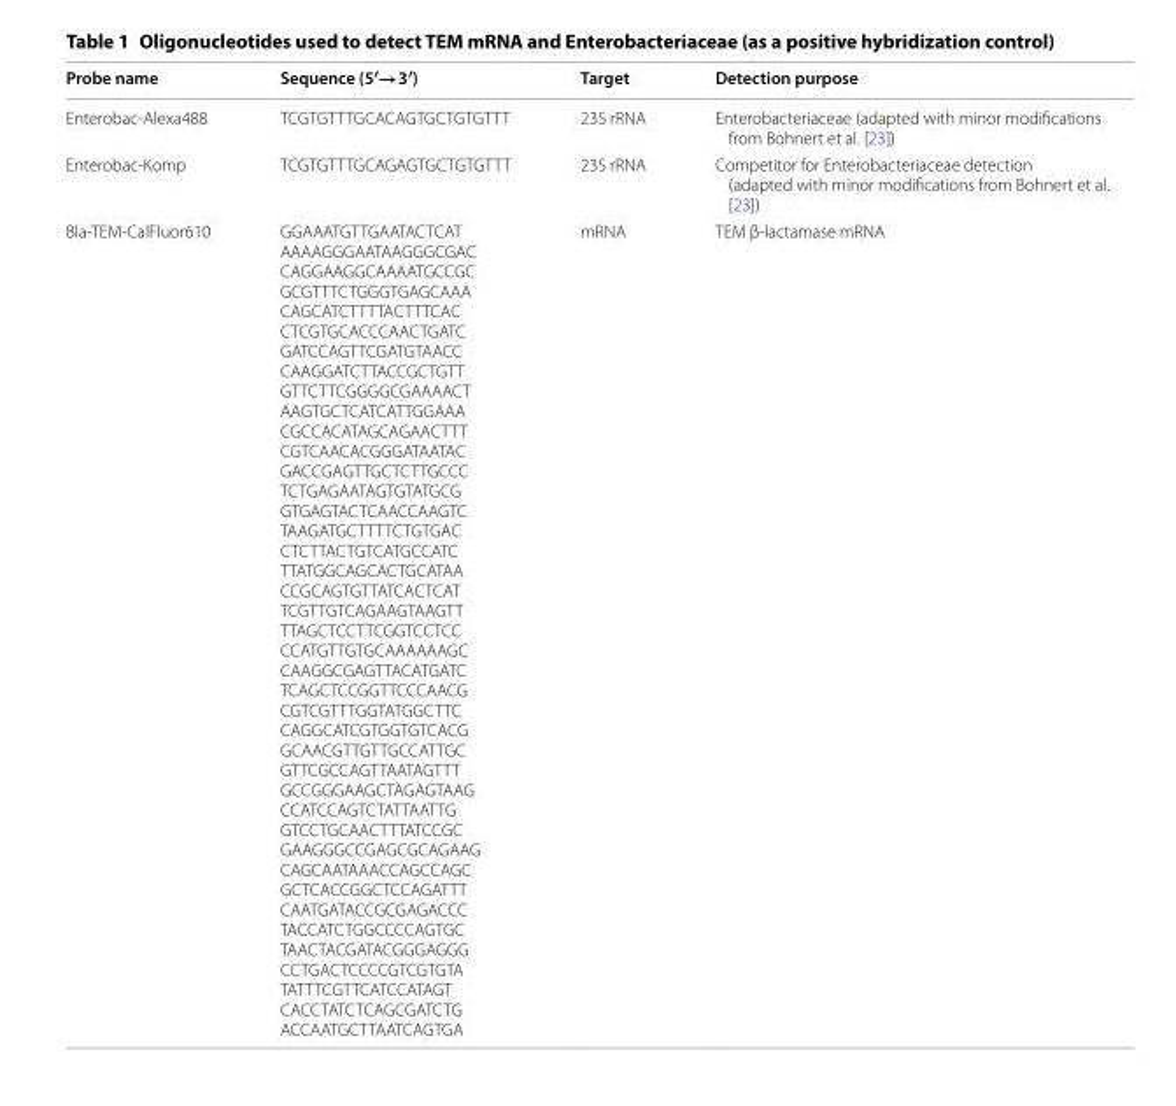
<table><thead><tr><td>Probe name</td><td>Sequence (5′→3′)</td><td>Target</td><td>Detection purpose</td></tr></thead><tbody><tr><td>Enterobac-Alexa488</td><td>TCGTGTTTGCACAGTGCTGTGTTT</td><td>23S rRNA</td><td>Enterobacteriaceae (adapted with minor modifications from Bohnert et al. [23])</td></tr><tr><td>Enterobac-Komp</td><td>TCGTGTTTGCAGAGTGCTGTGTTT</td><td>23S rRNA</td><td>Competitor for Enterobacteriaceae detection (adapted with minor modifications from Bohnert et al. [23])</td></tr><tr><td>Bla-TEM-CalFluor610</td><td>GGAAATGTTGAATACTCAT AAAAGGGAATAAGGGCGAC CAGGAAGGCAAAATGCCGC GCGTTTCTGGGTGAGCAAA CAGCATCTTTTACTTTCAC CTCGTGCACCCAACTGATC GATCCAGTTCGATGTAACC CAAGGATCTTACCGCTGTT GTTCTTCGGGGCGAAAACT AAGTGCTCATCATTGGAAA CGCCACATAGCAGAACTTT CGTCAACACGGGATAATAC GACCGAGTTGCTCTTGCCC TCTGAGAATAGTGTATGCG GTGAGTACTCAACCAAGTC TAAGATGCTTTTCTGTGAC CTCTTACTGTCATGCCATC TTATGGCAGCACTGCATAA CCGCAGTGTTATCACTCAT TCGTTGTCAGAAGTAAGTT TTAGCTCCTTCGGTCCTCC CCATGTTGTGCAAAAAAGC CAAGGCGAGTTACATGATC TCAGCTCCGGTTCCCAACG CGTCGTTTGGTATGGCTTC CAGGCATCGTGGTGTCACG GCAACGTTGTTGCCATTGC GTTCGCCAGTTAATAGTTT GCCGGGAAGCTAGAGTAAG CCATCCAGTCTATTAATTG GTCCTGCAACTTTATCCGC GAAGGGCCGAGCGCAGAAG CAGCAATAAACCAGCCAGC GCTCACCGGCTCCAGATTT CAATGATACCGCGAGACCC TACCATCTGGCCCCAGTGC TAACTACGATACGGGAGGG CCTGACTCCCCGTCGTGTA TATTTCGTTCATCCATAGT CACCTATCTCAGCGATCTG ACCAATGCTTAATCAGTGA</td><td>mRNA</td><td>TEM β-lactamase mRNA</td></tr></tbody></table>